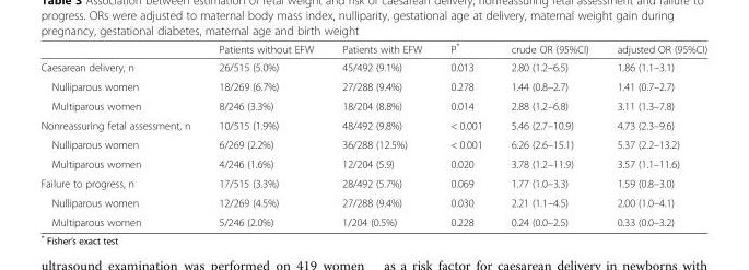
<table><thead><tr><td></td><td>Patients without EFW</td><td>Patients with EFW</td><td>P*</td><td>crude OR (95%CI)</td><td>adjusted OR (95%CI)</td></tr></thead><tbody><tr><td>Caesarean delivery, n</td><td>26/515 (5.0%)</td><td>45/492 (9.1%)</td><td>0.013</td><td>2.80 (1.2–6.5)</td><td>1.86 (1.1–3.1)</td></tr><tr><td>Nulliparous women</td><td>18/269 (6.7%)</td><td>27/288 (9.4%)</td><td>0.278</td><td>1.44 (0.8–2.7)</td><td>1.41 (0.7–2.7)</td></tr><tr><td>Multiparous women</td><td>8/246 (3.3%)</td><td>18/204 (8.8%)</td><td>0.014</td><td>2.88 (1.2–6.8)</td><td>3.11 (1.3–7.8)</td></tr><tr><td>Nonreassuring fetal assessment, n</td><td>10/515 (1.9%)</td><td>48/492 (9.8%)</td><td>&lt; 0.001</td><td>5.46 (2.7–10.9)</td><td>4.73 (2.3–9.6)</td></tr><tr><td>Nulliparous women</td><td>6/269 (2.2%)</td><td>36/288 (12.5%)</td><td>&lt; 0.001</td><td>6.26 (2.6–15.1)</td><td>5.37 (2.2–13.2)</td></tr><tr><td>Multiparous women</td><td>4/246 (1.6%)</td><td>12/204 (5.9)</td><td>0.020</td><td>3.78 (1.2–11.9)</td><td>3.57 (1.1–11.6)</td></tr><tr><td>Failure to progress, n</td><td>17/515 (3.3%)</td><td>28/492 (5.7%)</td><td>0.069</td><td>1.77 (1.0–3.3)</td><td>1.59 (0.8–3.0)</td></tr><tr><td>Nulliparous women</td><td>12/269 (4.5%)</td><td>27/288 (9.4%)</td><td>0.030</td><td>2.21 (1.1–4.5)</td><td>2.00 (1.0–4.1)</td></tr><tr><td>Multiparous women</td><td>5/246 (2.0%)</td><td>1/204 (0.5%)</td><td>0.228</td><td>0.24 (0.0–2.5)</td><td>0.33 (0.0–3.2)</td></tr></tbody></table>